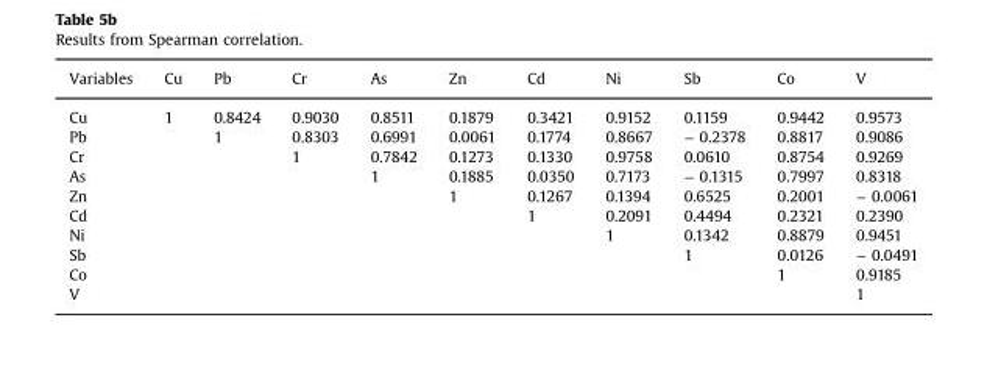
<table><thead><tr><td>Variables</td><td>Cu</td><td>Pb</td><td>Cr</td><td>As</td><td>Zn</td><td>Cd</td><td>Ni</td><td>Sb</td><td>Co</td><td>V</td></tr></thead><tbody><tr><td>Cu</td><td>1</td><td>0.8424</td><td>0.9030</td><td>0.8511</td><td>0.1879</td><td>0.3421</td><td>0.9152</td><td>0.1159</td><td>0.9442</td><td>0.9573</td></tr><tr><td>Pb</td><td></td><td>1</td><td>0.8303</td><td>0.6991</td><td>0.0061</td><td>0.1774</td><td>0.8667</td><td>− 0.2378</td><td>0.8817</td><td>0.9086</td></tr><tr><td>Cr</td><td></td><td></td><td>1</td><td>0.7842</td><td>0.1273</td><td>0.1330</td><td>0.9758</td><td>0.0610</td><td>0.8754</td><td>0.9269</td></tr><tr><td>As</td><td></td><td></td><td></td><td>1</td><td>0.1885</td><td>0.0350</td><td>0.7173</td><td>− 0.1315</td><td>0.7997</td><td>0.8318</td></tr><tr><td>Zn</td><td></td><td></td><td></td><td></td><td>1</td><td>0.1267</td><td>0.1394</td><td>0.6525</td><td>0.2001</td><td>− 0.0061</td></tr><tr><td>Cd</td><td></td><td></td><td></td><td></td><td></td><td>1</td><td>0.2091</td><td>0.4494</td><td>0.2321</td><td>0.2390</td></tr><tr><td>Ni</td><td></td><td></td><td></td><td></td><td></td><td></td><td>1</td><td>0.1342</td><td>0.8879</td><td>0.9451</td></tr><tr><td>Sb</td><td></td><td></td><td></td><td></td><td></td><td></td><td></td><td>1</td><td>0.0126</td><td>− 0.0491</td></tr><tr><td>Co</td><td></td><td></td><td></td><td></td><td></td><td></td><td></td><td></td><td>1</td><td>0.9185</td></tr><tr><td>V</td><td></td><td></td><td></td><td></td><td></td><td></td><td></td><td></td><td></td><td>1</td></tr></tbody></table>